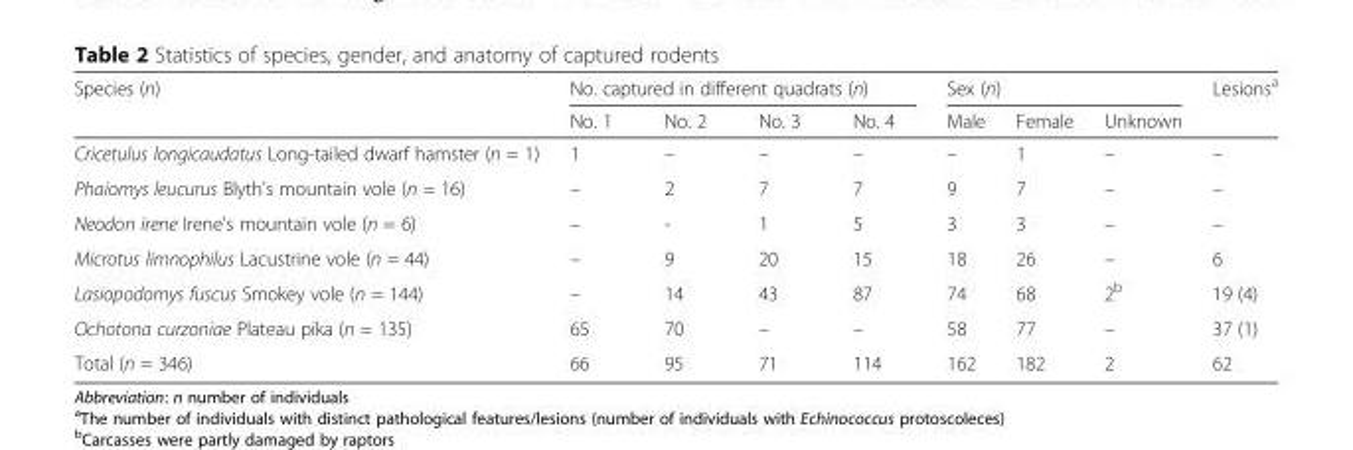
<table><thead><tr><td rowspan="2">Species (n)</td><td colspan="4">No. captured in different quadrats (n)</td><td colspan="3">Sex (n)</td><td rowspan="2">Lesions<sup>a</sup></td></tr><tr><td>No. 1</td><td>No. 2</td><td>No. 3</td><td>No. 4</td><td>Male</td><td>Female</td><td>Unknown</td></tr></thead><tbody><tr><td>Cricetulus longicaudatus Long-tailed dwarf hamster (n = 1)</td><td>1</td><td>–</td><td>–</td><td>–</td><td>–</td><td>1</td><td>–</td><td>–</td></tr><tr><td>Phaiomys leucurus Blyth&#x27;s mountain vole (n = 16)</td><td>–</td><td>2</td><td>7</td><td>7</td><td>9</td><td>7</td><td>–</td><td>–</td></tr><tr><td>Neodon irene Irene&#x27;s mountain vole (n = 6)</td><td>–</td><td>-</td><td>1</td><td>5</td><td>3</td><td>3</td><td>–</td><td>–</td></tr><tr><td>Microtus limnophilus Lacustrine vole (n = 44)</td><td>–</td><td>9</td><td>20</td><td>15</td><td>18</td><td>26</td><td>–</td><td>6</td></tr><tr><td>Lasiopodomys fuscus Smokey vole (n = 144)</td><td>–</td><td>14</td><td>43</td><td>87</td><td>74</td><td>68</td><td>2<sup>b</sup></td><td>19 (4)</td></tr><tr><td>Ochotona curzoniae Plateau pika (n = 135)</td><td>65</td><td>70</td><td>–</td><td>–</td><td>58</td><td>77</td><td>–</td><td>37 (1)</td></tr><tr><td>Total (n = 346)</td><td>66</td><td>95</td><td>71</td><td>114</td><td>162</td><td>182</td><td>2</td><td>62</td></tr></tbody></table>